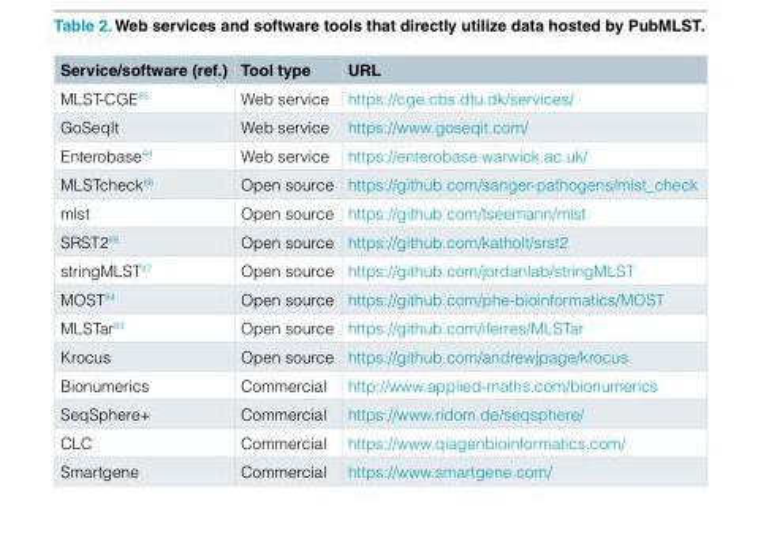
<table><thead><tr><td>Service/software (ref.)</td><td>Tool type</td><td>URL</td></tr></thead><tbody><tr><td>MLST-CGE<sup>85</sup></td><td>Web service</td><td>https://cge.cbs.dtu.dk/services/</td></tr><tr><td>GoSeqIt</td><td>Web service</td><td>https://www.goseqit.com/</td></tr><tr><td>Enterobase<sup>44</sup></td><td>Web service</td><td>https://enterobase.warwick.ac.uk/</td></tr><tr><td>MLSTcheck<sup>86</sup></td><td>Open source</td><td>https://github.com/sanger-pathogens/mlst_check</td></tr><tr><td>mlst</td><td>Open source</td><td>https://github.com/tseemann/mlst</td></tr><tr><td>SRST2<sup>88</sup></td><td>Open source</td><td>https://github.com/katholt/srst2</td></tr><tr><td>stringMLST<sup>87</sup></td><td>Open source</td><td>https://github.com/jordanlab/stringMLST</td></tr><tr><td>MOST<sup>84</sup></td><td>Open source</td><td>https://github.com/phe-bioinformatics/MOST</td></tr><tr><td>MLSTar<sup>83</sup></td><td>Open source</td><td>https://github.com/iferres/MLSTar</td></tr><tr><td>Krocus</td><td>Open source</td><td>https://github.com/andrewjpage/krocus</td></tr><tr><td>Bionumerics</td><td>Commercial</td><td>http://www.applied-maths.com/bionumerics</td></tr><tr><td>SeqSphere+</td><td>Commercial</td><td>https://www.ridom.de/seqsphere/</td></tr><tr><td>CLC</td><td>Commercial</td><td>https://www.qiagenbioinformatics.com/</td></tr><tr><td>Smartgene</td><td>Commercial</td><td>https://www.smartgene.com/</td></tr></tbody></table>